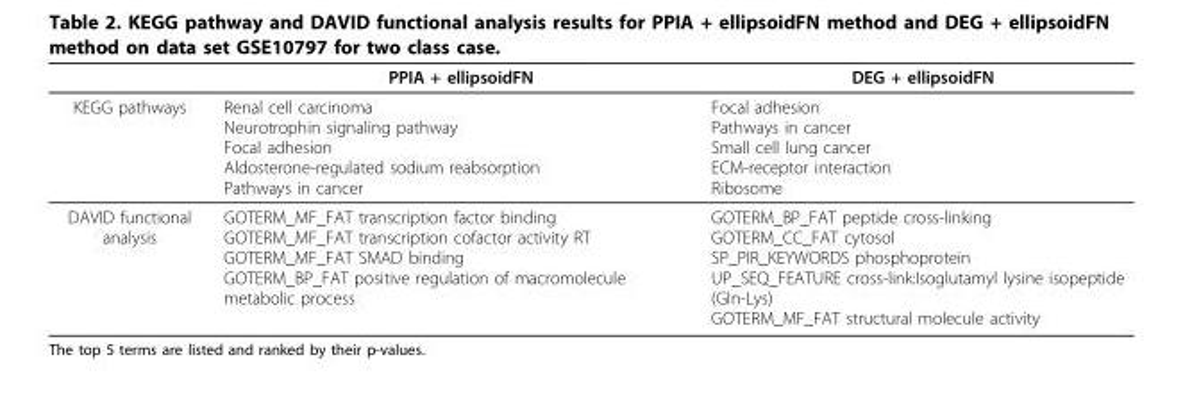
<table><thead><tr><td></td><td>PPIA + ellipsoidFN</td><td>DEG + ellipsoidFN</td></tr></thead><tbody><tr><td>KEGG pathways</td><td>Renal cell carcinoma Neurotrophin signaling pathway Focal adhesion Aldosterone-regulated sodium reabsorption Pathways in cancer</td><td>Focal adhesion Pathways in cancer Small cell lung cancer ECM-receptor interaction Ribosome</td></tr><tr><td>DAVID functional analysis</td><td>GOTERM_MF_FAT transcription factor binding GOTERM_MF_FAT transcription cofactor activity RT GOTERM_MF_FAT SMAD binding GOTERM_BP_FAT positive regulation of macromolecule metabolic process</td><td>GOTERM_BP_FAT peptide cross-linking GOTERM_CC_FAT cytosol SP_PIR_KEYWORDS phosphoprotein UP_SEQ_FEATURE cross-link:Isoglutamyl lysine isopeptide (Gln-Lys) GOTERM_MF_FAT structural molecule activity</td></tr></tbody></table>